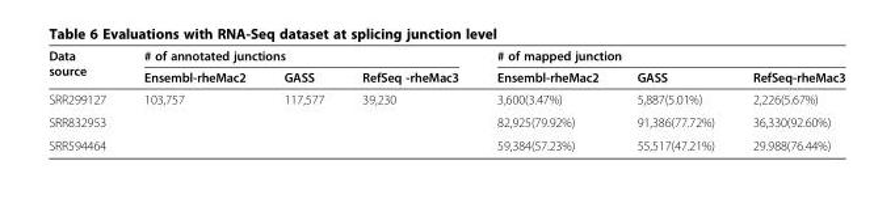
<table><thead><tr><td rowspan="2">Data source</td><td colspan="3"># of annotated junctions</td><td colspan="3"># of mapped junction</td></tr><tr><td>Ensembl-rheMac2</td><td>GASS</td><td>RefSeq -rheMac3</td><td>Ensembl-rheMac2</td><td>GASS</td><td>RefSeq-rheMac3</td></tr></thead><tbody><tr><td>SRR299127</td><td rowspan="3">103,757</td><td rowspan="3">117,577</td><td rowspan="3">39,230</td><td>3,600(3.47%)</td><td>5,887(5.01%)</td><td>2,226(5.67%)</td></tr><tr><td>SRR832953</td><td>82,925(79.92%)</td><td>91,386(77.72%)</td><td>36,330(92.60%)</td></tr><tr><td>SRR594464</td><td>59,384(57.23%)</td><td>55,517(47.21%)</td><td>29.988(76.44%)</td></tr></tbody></table>